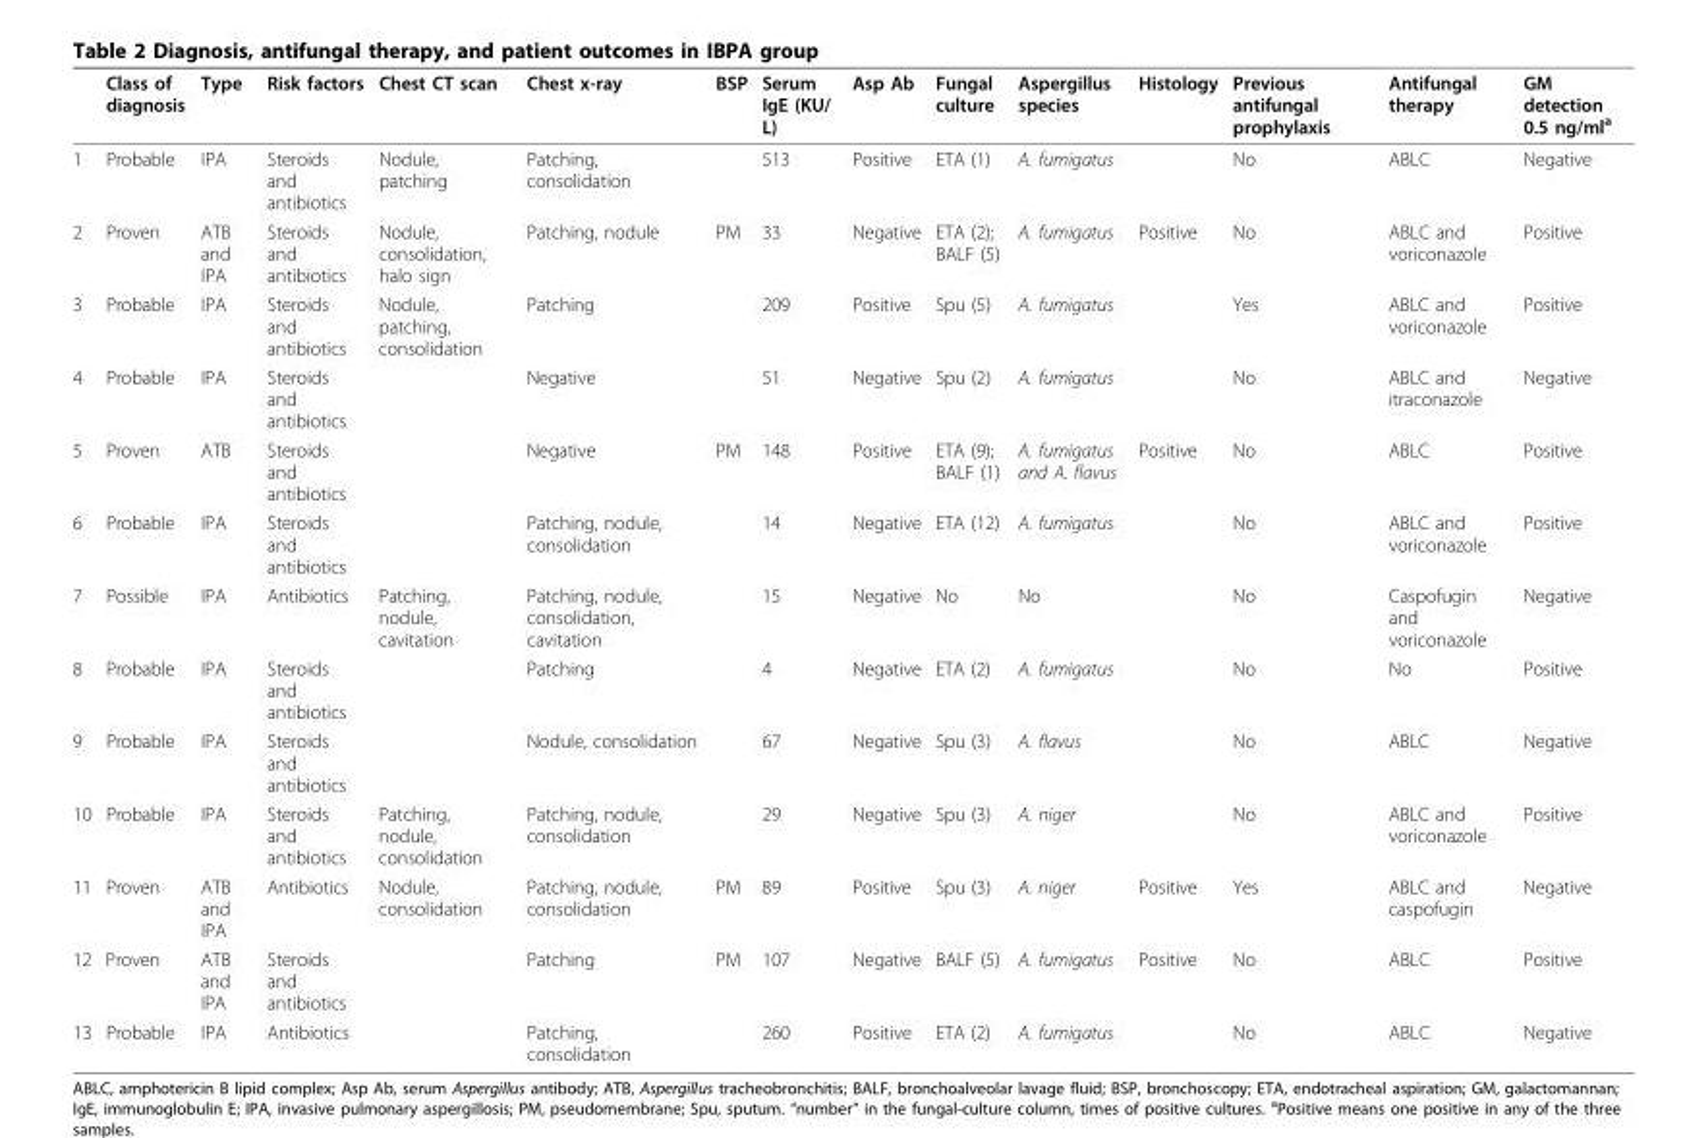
<table><thead><tr><td></td><td>Class of diagnosis</td><td>Type</td><td>Risk factors</td><td>Chest CT scan</td><td>Chest x-ray</td><td>BSP</td><td>Serum IgE (KU/ L)</td><td>Asp Ab</td><td>Fungal culture</td><td>Aspergillus species</td><td>Histology</td><td>Previous antifungal prophylaxis</td><td>Antifungal therapy</td><td>GM detection 0.5 ng/ml<sup>a</sup></td></tr></thead><tbody><tr><td>1</td><td>Probable</td><td>IPA</td><td>Steroids and antibiotics</td><td>Nodule, patching</td><td>Patching, consolidation</td><td></td><td>513</td><td>Positive</td><td>ETA (1)</td><td>A. fumigatus</td><td></td><td>No</td><td>ABLC</td><td>Negative</td></tr><tr><td>2</td><td>Proven</td><td>ATB and IPA</td><td>Steroids and antibiotics</td><td>Nodule, consolidation, halo sign</td><td>Patching, nodule</td><td>PM</td><td>33</td><td>Negative</td><td>ETA (2); BALF (5)</td><td>A. fumigatus</td><td>Positive</td><td>No</td><td>ABLC and voriconazole</td><td>Positive</td></tr><tr><td>3</td><td>Probable</td><td>IPA</td><td>Steroids and antibiotics</td><td>Nodule, patching, consolidation</td><td>Patching</td><td></td><td>209</td><td>Positive</td><td>Spu (5)</td><td>A. fumigatus</td><td></td><td>Yes</td><td>ABLC and voriconazole</td><td>Positive</td></tr><tr><td>4</td><td>Probable</td><td>IPA</td><td>Steroids and antibiotics</td><td></td><td>Negative</td><td></td><td>51</td><td>Negative</td><td>Spu (2)</td><td>A. fumigatus</td><td></td><td>No</td><td>ABLC and itraconazole</td><td>Negative</td></tr><tr><td>5</td><td>Proven</td><td>ATB</td><td>Steroids and antibiotics</td><td></td><td>Negative</td><td>PM</td><td>148</td><td>Positive</td><td>ETA (9); BALF (1)</td><td>A. fumigatus and A. flavus</td><td>Positive</td><td>No</td><td>ABLC</td><td>Positive</td></tr><tr><td>6</td><td>Probable</td><td>IPA</td><td>Steroids and antibiotics</td><td></td><td>Patching, nodule, consolidation</td><td></td><td>14</td><td>Negative</td><td>ETA (12)</td><td>A. fumigatus</td><td></td><td>No</td><td>ABLC and voriconazole</td><td>Positive</td></tr><tr><td>7</td><td>Possible</td><td>IPA</td><td>Antibiotics</td><td>Patching, nodule, cavitation</td><td>Patching, nodule, consolidation, cavitation</td><td></td><td>15</td><td>Negative</td><td>No</td><td>No</td><td></td><td>No</td><td>Caspofugin and voriconazole</td><td>Negative</td></tr><tr><td>8</td><td>Probable</td><td>IPA</td><td>Steroids and antibiotics</td><td></td><td>Patching</td><td></td><td>4</td><td>Negative</td><td>ETA (2)</td><td>A. fumigatus</td><td></td><td>No</td><td>No</td><td>Positive</td></tr><tr><td>9</td><td>Probable</td><td>IPA</td><td>Steroids and antibiotics</td><td></td><td>Nodule, consolidation</td><td></td><td>67</td><td>Negative</td><td>Spu (3)</td><td>A. flavus</td><td></td><td>No</td><td>ABLC</td><td>Negative</td></tr><tr><td>10</td><td>Probable</td><td>IPA</td><td>Steroids and antibiotics</td><td>Patching, nodule, consolidation</td><td>Patching, nodule, consolidation</td><td></td><td>29</td><td>Negative</td><td>Spu (3)</td><td>A. niger</td><td></td><td>No</td><td>ABLC and voriconazole</td><td>Positive</td></tr><tr><td>11</td><td>Proven</td><td>ATB and IPA</td><td>Antibiotics</td><td>Nodule, consolidation</td><td>Patching, nodule, consolidation</td><td>PM</td><td>89</td><td>Positive</td><td>Spu (3)</td><td>A. niger</td><td>Positive</td><td>Yes</td><td>ABLC and caspofugin</td><td>Negative</td></tr><tr><td>12</td><td>Proven</td><td>ATB and IPA</td><td>Steroids and antibiotics</td><td></td><td>Patching</td><td>PM</td><td>107</td><td>Negative</td><td>BALF (5)</td><td>A. fumigatus</td><td>Positive</td><td>No</td><td>ABLC</td><td>Positive</td></tr><tr><td>13</td><td>Probable</td><td>IPA</td><td>Antibiotics</td><td></td><td>Patching, consolidation</td><td></td><td>260</td><td>Positive</td><td>ETA (2)</td><td>A. fumigatus</td><td></td><td>No</td><td>ABLC</td><td>Negative</td></tr></tbody></table>